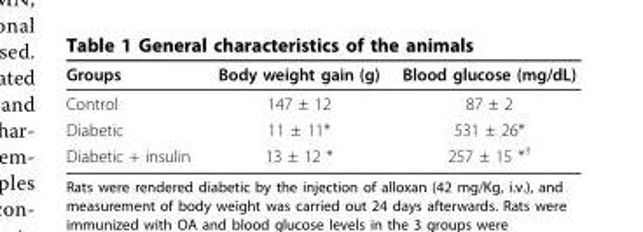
<table><thead><tr><td>Groups</td><td>Body weight gain (g)</td><td>Blood glucose (mg/dL)</td></tr></thead><tbody><tr><td>Control</td><td>147 ± 12</td><td>87 ± 2</td></tr><tr><td>Diabetic</td><td>11 ± 11*</td><td>531 ± 26*</td></tr><tr><td>Diabetic + insulin</td><td>13 ± 12 *</td><td>257 ± 15 *<sup>†</sup></td></tr></tbody></table>